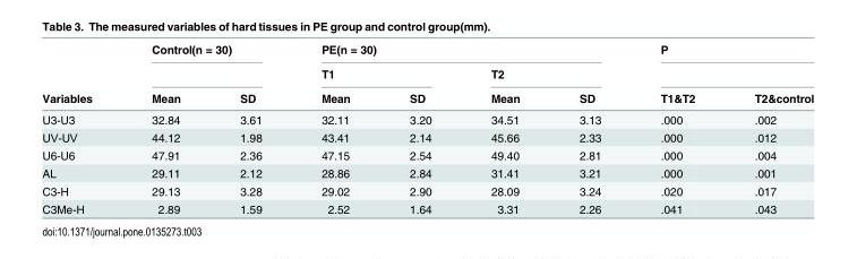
<table><thead><tr><td rowspan="3">Variables</td><td colspan="2">Control(n = 30)</td><td colspan="4">PE(n = 30)</td><td colspan="2">P</td></tr><tr><td rowspan="2">Mean</td><td rowspan="2">SD</td><td colspan="2">T1</td><td colspan="2">T2</td><td rowspan="2">T1&amp;T2</td><td rowspan="2">T2&amp;control</td></tr><tr><td>Mean</td><td>SD</td><td>Mean</td><td>SD</td></tr></thead><tbody><tr><td>U3-U3</td><td>32.84</td><td>3.61</td><td>32.11</td><td>3.20</td><td>34.51</td><td>3.13</td><td>.000</td><td>.002</td></tr><tr><td>UⅤ-UⅤ</td><td>44.12</td><td>1.98</td><td>43.41</td><td>2.14</td><td>45.66</td><td>2.33</td><td>.000</td><td>.012</td></tr><tr><td>U6-U6</td><td>47.91</td><td>2.36</td><td>47.15</td><td>2.54</td><td>49.40</td><td>2.81</td><td>.000</td><td>.004</td></tr><tr><td>AL</td><td>29.11</td><td>2.12</td><td>28.86</td><td>2.84</td><td>31.41</td><td>3.21</td><td>.000</td><td>.001</td></tr><tr><td>C3-H</td><td>29.13</td><td>3.28</td><td>29.02</td><td>2.90</td><td>28.09</td><td>3.24</td><td>.020</td><td>.017</td></tr><tr><td>C3Me-H</td><td>2.89</td><td>1.59</td><td>2.52</td><td>1.64</td><td>3.31</td><td>2.26</td><td>.041</td><td>.043</td></tr></tbody></table>